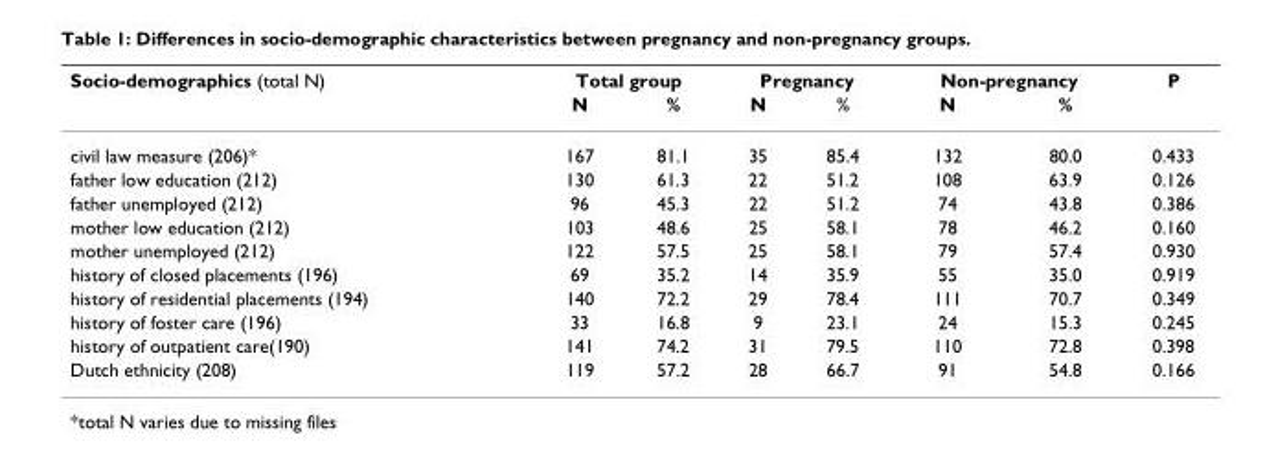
<table><thead><tr><td rowspan="2">Socio-demographics (total N)</td><td colspan="2">Total group</td><td colspan="2">Pregnancy</td><td colspan="2">Non-pregnancy</td><td rowspan="2">P</td></tr><tr><td>N</td><td>%</td><td>N</td><td>%</td><td>N</td><td>%</td></tr></thead><tbody><tr><td>civil law measure (206)*</td><td>167</td><td>81.1</td><td>35</td><td>85.4</td><td>132</td><td>80.0</td><td>0.433</td></tr><tr><td>father low education (212)</td><td>130</td><td>61.3</td><td>22</td><td>51.2</td><td>108</td><td>63.9</td><td>0.126</td></tr><tr><td>father unemployed (212)</td><td>96</td><td>45.3</td><td>22</td><td>51.2</td><td>74</td><td>43.8</td><td>0.386</td></tr><tr><td>mother low education (212)</td><td>103</td><td>48.6</td><td>25</td><td>58.1</td><td>78</td><td>46.2</td><td>0.160</td></tr><tr><td>mother unemployed (212)</td><td>122</td><td>57.5</td><td>25</td><td>58.1</td><td>79</td><td>57.4</td><td>0.930</td></tr><tr><td>history of closed placements (196)</td><td>69</td><td>35.2</td><td>14</td><td>35.9</td><td>55</td><td>35.0</td><td>0.919</td></tr><tr><td>history of residential placements (194)</td><td>140</td><td>72.2</td><td>29</td><td>78.4</td><td>111</td><td>70.7</td><td>0.349</td></tr><tr><td>history of foster care (196)</td><td>33</td><td>16.8</td><td>9</td><td>23.1</td><td>24</td><td>15.3</td><td>0.245</td></tr><tr><td>history of outpatient care(190)</td><td>141</td><td>74.2</td><td>31</td><td>79.5</td><td>110</td><td>72.8</td><td>0.398</td></tr><tr><td>Dutch ethnicity (208)</td><td>119</td><td>57.2</td><td>28</td><td>66.7</td><td>91</td><td>54.8</td><td>0.166</td></tr></tbody></table>